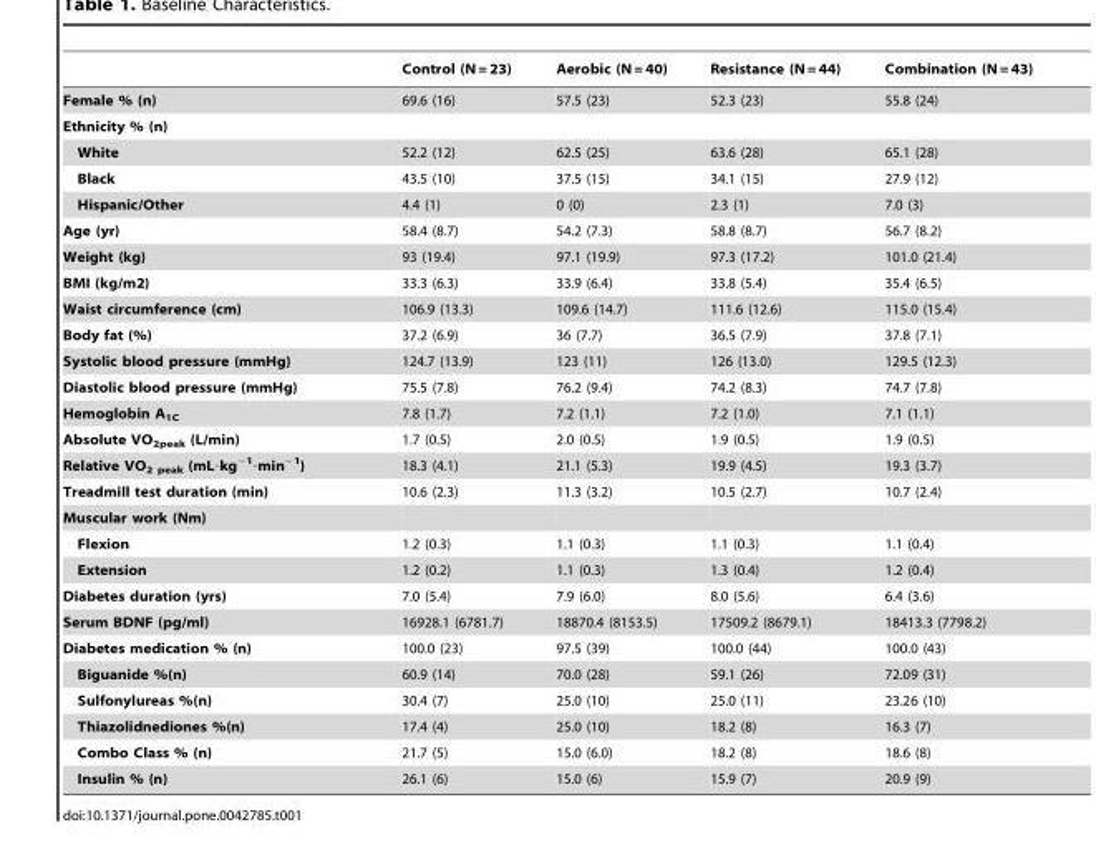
<table><thead><tr><td></td><td>Control (N = 23)</td><td>Aerobic (N = 40)</td><td>Resistance (N = 44)</td><td>Combination (N = 43)</td></tr></thead><tbody><tr><td>Female % (n)</td><td>69.6 (16)</td><td>57.5 (23)</td><td>52.3 (23)</td><td>55.8 (24)</td></tr><tr><td colspan="5">Ethnicity % (n)</td></tr><tr><td>White</td><td>52.2 (12)</td><td>62.5 (25)</td><td>63.6 (28)</td><td>65.1 (28)</td></tr><tr><td>Black</td><td>43.5 (10)</td><td>37.5 (15)</td><td>34.1 (15)</td><td>27.9 (12)</td></tr><tr><td>Hispanic/Other</td><td>4.4 (1)</td><td>0 (0)</td><td>2.3 (1)</td><td>7.0 (3)</td></tr><tr><td>Age (yr)</td><td>58.4 (8.7)</td><td>54.2 (7.3)</td><td>58.8 (8.7)</td><td>56.7 (8.2)</td></tr><tr><td>Weight (kg)</td><td>93 (19.4)</td><td>97.1 (19.9)</td><td>97.3 (17.2)</td><td>101.0 (21.4)</td></tr><tr><td>BMI (kg/m2)</td><td>33.3 (6.3)</td><td>33.9 (6.4)</td><td>33.8 (5.4)</td><td>35.4 (6.5)</td></tr><tr><td>Waist circumference (cm)</td><td>106.9 (13.3)</td><td>109.6 (14.7)</td><td>111.6 (12.6)</td><td>115.0 (15.4)</td></tr><tr><td>Body fat (%)</td><td>37.2 (6.9)</td><td>36 (7.7)</td><td>36.5 (7.9)</td><td>37.8 (7.1)</td></tr><tr><td>Systolic blood pressure (mmHg)</td><td>124.7 (13.9)</td><td>123 (11)</td><td>126 (13.0)</td><td>129.5 (12.3)</td></tr><tr><td>Diastolic blood pressure (mmHg)</td><td>75.5 (7.8)</td><td>76.2 (9.4)</td><td>74.2 (8.3)</td><td>74.7 (7.8)</td></tr><tr><td>Hemoglobin A<sub>1C</sub></td><td>7.8 (1.7)</td><td>7.2 (1.1)</td><td>7.2 (1.0)</td><td>7.1 (1.1)</td></tr><tr><td>Absolute VO<sub>2peak</sub> (L/min)</td><td>1.7 (0.5)</td><td>2.0 (0.5)</td><td>1.9 (0.5)</td><td>1.9 (0.5)</td></tr><tr><td>Relative VO<sub>2 peak</sub> (mL·kg<sup>−1</sup>·min<sup>−1</sup>)</td><td>18.3 (4.1)</td><td>21.1 (5.3)</td><td>19.9 (4.5)</td><td>19.3 (3.7)</td></tr><tr><td>Treadmill test duration (min)</td><td>10.6 (2.3)</td><td>11.3 (3.2)</td><td>10.5 (2.7)</td><td>10.7 (2.4)</td></tr><tr><td colspan="5">Muscular work (Nm)</td></tr><tr><td>Flexion</td><td>1.2 (0.3)</td><td>1.1 (0.3)</td><td>1.1 (0.3)</td><td>1.1 (0.4)</td></tr><tr><td>Extension</td><td>1.2 (0.2)</td><td>1.1 (0.3)</td><td>1.3 (0.4)</td><td>1.2 (0.4)</td></tr><tr><td>Diabetes duration (yrs)</td><td>7.0 (5.4)</td><td>7.9 (6.0)</td><td>8.0 (5.6)</td><td>6.4 (3.6)</td></tr><tr><td>Serum BDNF (pg/ml)</td><td>16928.1 (6781.7)</td><td>18870.4 (8153.5)</td><td>17509.2 (8679.1)</td><td>18413.3 (7798.2)</td></tr><tr><td>Diabetes medication % (n)</td><td>100.0 (23)</td><td>97.5 (39)</td><td>100.0 (44)</td><td>100.0 (43)</td></tr><tr><td>Biguanide %(n)</td><td>60.9 (14)</td><td>70.0 (28)</td><td>59.1 (26)</td><td>72.09 (31)</td></tr><tr><td>Sulfonylureas %(n)</td><td>30.4 (7)</td><td>25.0 (10)</td><td>25.0 (11)</td><td>23.26 (10)</td></tr><tr><td>Thiazolidnediones %(n)</td><td>17.4 (4)</td><td>25.0 (10)</td><td>18.2 (8)</td><td>16.3 (7)</td></tr><tr><td>Combo Class % (n)</td><td>21.7 (5)</td><td>15.0 (6.0)</td><td>18.2 (8)</td><td>18.6 (8)</td></tr><tr><td>Insulin % (n)</td><td>26.1 (6)</td><td>15.0 (6)</td><td>15.9 (7)</td><td>20.9 (9)</td></tr></tbody></table>